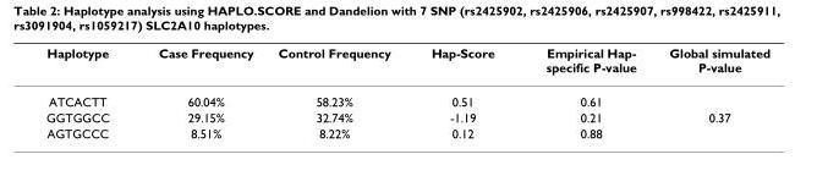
<table><thead><tr><td>Haplotype</td><td>Case Frequency</td><td>Control Frequency</td><td>Hap-Score</td><td>Empirical Hap- specific P-value</td><td>Global simulated P-value</td></tr></thead><tbody><tr><td>ATCACTT</td><td>60.04%</td><td>58.23%</td><td>0.51</td><td>0.61</td><td></td></tr><tr><td>GGTGGCC</td><td>29.15%</td><td>32.74%</td><td>-1.19</td><td>0.21</td><td>0.37</td></tr><tr><td>AGTGCCC</td><td>8.51%</td><td>8.22%</td><td>0.12</td><td>0.88</td><td></td></tr></tbody></table>